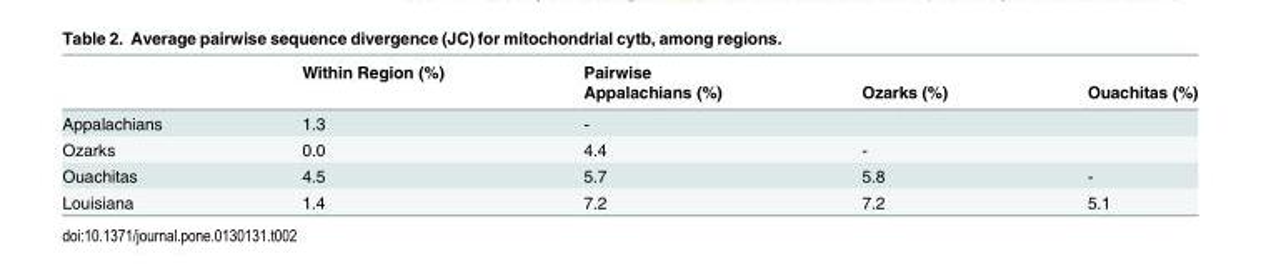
<table><thead><tr><td rowspan="2"></td><td rowspan="2">Within Region (%)</td><td rowspan="2">Pairwise Appalachians (%)</td><td rowspan="2">Ozarks (%)</td><td rowspan="2">Ouachitas (%)</td></tr><tr></tr></thead><tbody><tr><td>Appalachians</td><td>1.3</td><td>-</td><td></td><td></td></tr><tr><td>Ozarks</td><td>0.0</td><td>4.4</td><td>-</td><td></td></tr><tr><td>Ouachitas</td><td>4.5</td><td>5.7</td><td>5.8</td><td>-</td></tr><tr><td>Louisiana</td><td>1.4</td><td>7.2</td><td>7.2</td><td>5.1</td></tr></tbody></table>